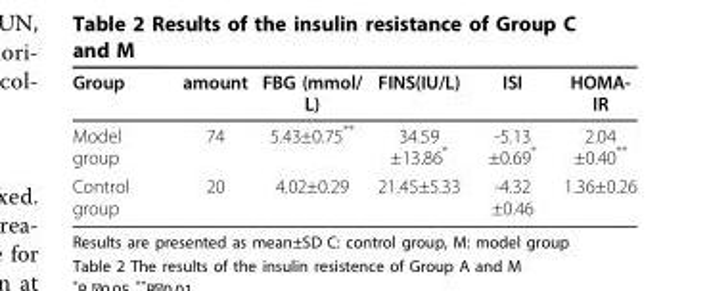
<table><thead><tr><td>Group</td><td>amount</td><td>FBG (mmol/ L)</td><td>FINS(IU/L)</td><td>ISI</td><td>HOMA- IR</td></tr></thead><tbody><tr><td>Model group</td><td>74</td><td>5.43±0.75**</td><td>34.59 ±13.86*</td><td>-5.13 ±0.69*</td><td>2.04 ±0.40**</td></tr><tr><td>Control group</td><td>20</td><td>4.02±0.29</td><td>21.45±5.33</td><td>-4.32 ±0.46</td><td>1.36±0.26</td></tr></tbody></table>